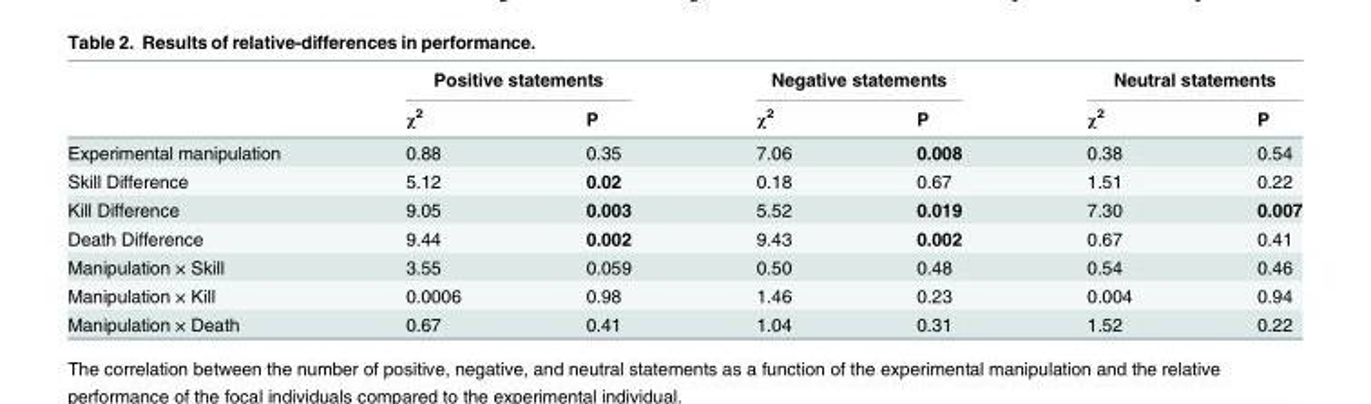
<table><thead><tr><td rowspan="2"></td><td colspan="2">Positive statements</td><td colspan="2">Negative statements</td><td colspan="2">Neutral statements</td></tr><tr><td>χ<sup>2</sup></td><td>P</td><td>χ<sup>2</sup></td><td>P</td><td>χ<sup>2</sup></td><td>P</td></tr></thead><tbody><tr><td>Experimental manipulation</td><td>0.88</td><td>0.35</td><td>7.06</td><td>0.008</td><td>0.38</td><td>0.54</td></tr><tr><td>Skill Difference</td><td>5.12</td><td>0.02</td><td>0.18</td><td>0.67</td><td>1.51</td><td>0.22</td></tr><tr><td>Kill Difference</td><td>9.05</td><td>0.003</td><td>5.52</td><td>0.019</td><td>7.30</td><td>0.007</td></tr><tr><td>Death Difference</td><td>9.44</td><td>0.002</td><td>9.43</td><td>0.002</td><td>0.67</td><td>0.41</td></tr><tr><td>Manipulation × Skill</td><td>3.55</td><td>0.059</td><td>0.50</td><td>0.48</td><td>0.54</td><td>0.46</td></tr><tr><td>Manipulation × Kill</td><td>0.0006</td><td>0.98</td><td>1.46</td><td>0.23</td><td>0.004</td><td>0.94</td></tr><tr><td>Manipulation × Death</td><td>0.67</td><td>0.41</td><td>1.04</td><td>0.31</td><td>1.52</td><td>0.22</td></tr></tbody></table>